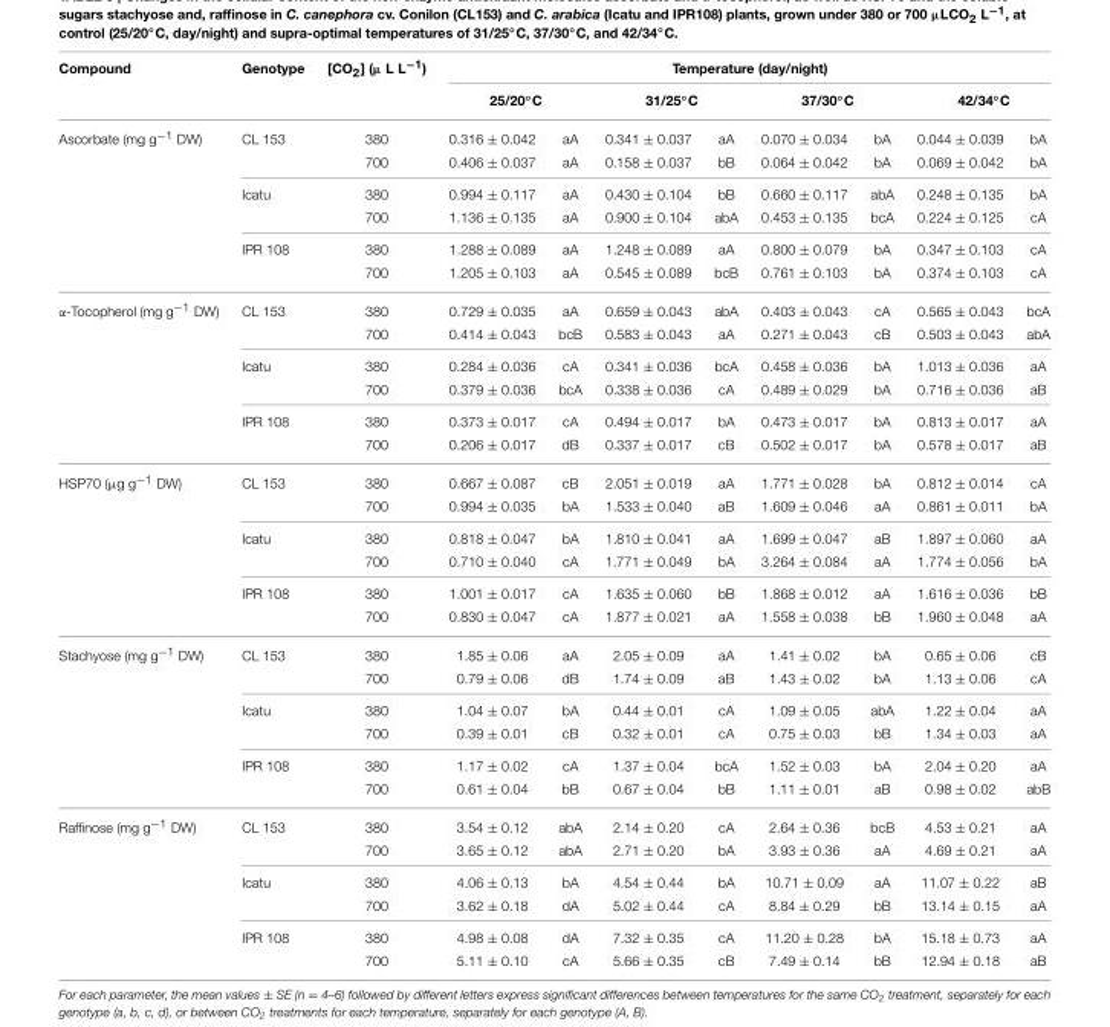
<table><thead><tr><td rowspan="3">Compound Ascorbate (mg g<sup>−1</sup> DW)</td><td rowspan="3">Genotype CL 153</td><td rowspan="3">[CO<sub>2</sub>] (µ L L<sup>−1</sup>) 380</td><td colspan="8">Temperature (day/night)</td></tr><tr><td colspan="2">25/20◦C</td><td colspan="2">31/25◦C</td><td colspan="2">37/30◦C</td><td colspan="2">42/34◦C</td></tr><tr><td>0.316 ± 0.042</td><td>aA</td><td>0.341 ± 0.037</td><td>aA</td><td>0.070 ± 0.034</td><td>bA</td><td>0.044 ± 0.039</td><td>bA</td></tr></thead><tbody><tr><td></td><td></td><td>700</td><td>0.406 ± 0.037</td><td>aA</td><td>0.158 ± 0.037</td><td>bB</td><td>0.064 ± 0.042</td><td>bA</td><td>0.069 ± 0.042</td><td>bA</td></tr><tr><td></td><td>Icatu</td><td>380</td><td>0.994 ± 0.117</td><td>aA</td><td>0.430 ± 0.104</td><td>bB</td><td>0.660 ± 0.117</td><td>abA</td><td>0.248 ± 0.135</td><td>bA</td></tr><tr><td></td><td></td><td>700</td><td>1.136 ± 0.135</td><td>aA</td><td>0.900 ± 0.104</td><td>abA</td><td>0.453 ± 0.135</td><td>bcA</td><td>0.224 ± 0.125</td><td>cA</td></tr><tr><td></td><td>IPR 108</td><td>380</td><td>1.288 ± 0.089</td><td>aA</td><td>1.248 ± 0.089</td><td>aA</td><td>0.800 ± 0.079</td><td>bA</td><td>0.347 ± 0.103</td><td>cA</td></tr><tr><td></td><td></td><td>700</td><td>1.205 ± 0.103</td><td>aA</td><td>0.545 ± 0.089</td><td>bcB</td><td>0.761 ± 0.103</td><td>bA</td><td>0.374 ± 0.103</td><td>cA</td></tr><tr><td rowspan="6">α-Tocopherol (mg g<sup>−1</sup> DW)</td><td>CL 153</td><td>380</td><td>0.729 ± 0.035</td><td>aA</td><td>0.659 ± 0.043</td><td>abA</td><td>0.403 ± 0.043</td><td>cA</td><td>0.565 ± 0.043</td><td>bcA</td></tr><tr><td></td><td>700</td><td>0.414 ± 0.043</td><td>bcB</td><td>0.583 ± 0.043</td><td>aA</td><td>0.271 ± 0.043</td><td>cB</td><td>0.503 ± 0.043</td><td>abA</td></tr><tr><td>Icatu</td><td>380</td><td>0.284 ± 0.036</td><td>cA</td><td>0.341 ± 0.036</td><td>bcA</td><td>0.458 ± 0.036</td><td>bA</td><td>1.013 ± 0.036</td><td>aA</td></tr><tr><td></td><td>700</td><td>0.379 ± 0.036</td><td>bcA</td><td>0.338 ± 0.036</td><td>cA</td><td>0.489 ± 0.029</td><td>bA</td><td>0.716 ± 0.036</td><td>aB</td></tr><tr><td>IPR 108</td><td>380</td><td>0.373 ± 0.017</td><td>cA</td><td>0.494 ± 0.017</td><td>bA</td><td>0.473 ± 0.017</td><td>bA</td><td>0.813 ± 0.017</td><td>aA</td></tr><tr><td></td><td>700</td><td>0.206 ± 0.017</td><td>dB</td><td>0.337 ± 0.017</td><td>cB</td><td>0.502 ± 0.017</td><td>bA</td><td>0.578 ± 0.017</td><td>aB</td></tr><tr><td rowspan="6">HSP70 (µg g<sup>−1</sup> DW)</td><td>CL 153</td><td>380</td><td>0.667 ± 0.087</td><td>cB</td><td>2.051 ± 0.019</td><td>aA</td><td>1.771 ± 0.028</td><td>bA</td><td>0.812 ± 0.014</td><td>cA</td></tr><tr><td></td><td>700</td><td>0.994 ± 0.035</td><td>bA</td><td>1.533 ± 0.040</td><td>aB</td><td>1.609 ± 0.046</td><td>aA</td><td>0.861 ± 0.011</td><td>bA</td></tr><tr><td>Icatu</td><td>380</td><td>0.818 ± 0.047</td><td>bA</td><td>1.810 ± 0.041</td><td>aA</td><td>1.699 ± 0.047</td><td>aB</td><td>1.897 ± 0.060</td><td>aA</td></tr><tr><td></td><td>700</td><td>0.710 ± 0.040</td><td>cA</td><td>1.771 ± 0.049</td><td>bA</td><td>3.264 ± 0.084</td><td>aA</td><td>1.774 ± 0.056</td><td>bA</td></tr><tr><td>IPR 108</td><td>380</td><td>1.001 ± 0.017</td><td>cA</td><td>1.635 ± 0.060</td><td>bB</td><td>1.868 ± 0.012</td><td>aA</td><td>1.616 ± 0.036</td><td>bB</td></tr><tr><td></td><td>700</td><td>0.830 ± 0.047</td><td>cA</td><td>1.877 ± 0.021</td><td>aA</td><td>1.558 ± 0.038</td><td>bB</td><td>1.960 ± 0.048</td><td>aA</td></tr><tr><td rowspan="6">Stachyose (mg g<sup>−1</sup> DW)</td><td>CL 153</td><td>380</td><td>1.85 ± 0.06</td><td>aA</td><td>2.05 ± 0.09</td><td>aA</td><td>1.41 ± 0.02</td><td>bA</td><td>0.65 ± 0.06</td><td>cB</td></tr><tr><td></td><td>700</td><td>0.79 ± 0.06</td><td>dB</td><td>1.74 ± 0.09</td><td>aB</td><td>1.43 ± 0.02</td><td>bA</td><td>1.13 ± 0.06</td><td>cA</td></tr><tr><td>Icatu</td><td>380</td><td>1.04 ± 0.07</td><td>bA</td><td>0.44 ± 0.01</td><td>cA</td><td>1.09 ± 0.05</td><td>abA</td><td>1.22 ± 0.04</td><td>aA</td></tr><tr><td></td><td>700</td><td>0.39 ± 0.01</td><td>cB</td><td>0.32 ± 0.01</td><td>cA</td><td>0.75 ± 0.03</td><td>bB</td><td>1.34 ± 0.03</td><td>aA</td></tr><tr><td>IPR 108</td><td>380</td><td>1.17 ± 0.02</td><td>cA</td><td>1.37 ± 0.04</td><td>bcA</td><td>1.52 ± 0.03</td><td>bA</td><td>2.04 ± 0.20</td><td>aA</td></tr><tr><td></td><td>700</td><td>0.61 ± 0.04</td><td>bB</td><td>0.67 ± 0.04</td><td>bB</td><td>1.11 ± 0.01</td><td>aB</td><td>0.98 ± 0.02</td><td>abB</td></tr><tr><td rowspan="6">Raffinose (mg g<sup>−1</sup> DW)</td><td>CL 153</td><td>380</td><td>3.54 ± 0.12</td><td>abA</td><td>2.14 ± 0.20</td><td>cA</td><td>2.64 ± 0.36</td><td>bcB</td><td>4.53 ± 0.21</td><td>aA</td></tr><tr><td></td><td>700</td><td>3.65 ± 0.12</td><td>abA</td><td>2.71 ± 0.20</td><td>bA</td><td>3.93 ± 0.36</td><td>aA</td><td>4.69 ± 0.21</td><td>aA</td></tr><tr><td>Icatu</td><td>380</td><td>4.06 ± 0.13</td><td>bA</td><td>4.54 ± 0.44</td><td>bA</td><td>10.71 ± 0.09</td><td>aA</td><td>11.07 ± 0.22</td><td>aB</td></tr><tr><td></td><td>700</td><td>3.62 ± 0.18</td><td>dA</td><td>5.02 ± 0.44</td><td>cA</td><td>8.84 ± 0.29</td><td>bB</td><td>13.14 ± 0.15</td><td>aA</td></tr><tr><td>IPR 108</td><td>380</td><td>4.98 ± 0.08</td><td>dA</td><td>7.32 ± 0.35</td><td>cA</td><td>11.20 ± 0.28</td><td>bA</td><td>15.18 ± 0.73</td><td>aA</td></tr><tr><td></td><td>700</td><td>5.11 ± 0.10</td><td>cA</td><td>5.66 ± 0.35</td><td>cB</td><td>7.49 ± 0.14</td><td>bB</td><td>12.94 ± 0.18</td><td>aB</td></tr></tbody></table>